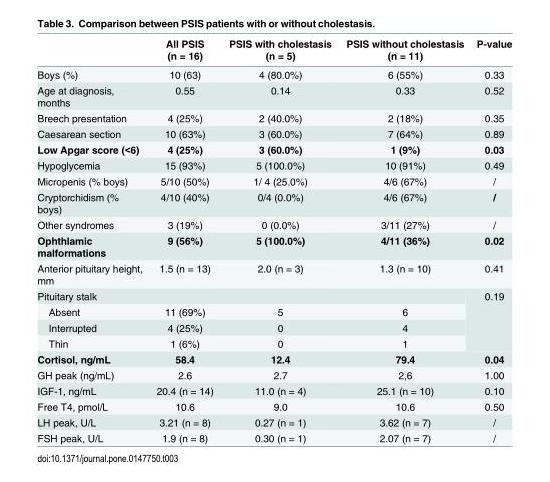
<table><thead><tr><td></td><td>All PSIS (n = 16)</td><td>PSIS with cholestasis (n = 5)</td><td>PSIS without cholestasis (n = 11)</td><td>P-value</td></tr></thead><tbody><tr><td>Boys (%)</td><td>10 (63)</td><td>4 (80.0%)</td><td>6 (55%)</td><td>0.33</td></tr><tr><td>Age at diagnosis, months</td><td>0.55</td><td>0.14</td><td>0.33</td><td>0.52</td></tr><tr><td>Breech presentation</td><td>4 (25%)</td><td>2 (40.0%)</td><td>2 (18%)</td><td>0.35</td></tr><tr><td>Caesarean section</td><td>10 (63%)</td><td>3 (60.0%)</td><td>7 (64%)</td><td>0.89</td></tr><tr><td>Low Apgar score (&lt;6)</td><td>4 (25%)</td><td>3 (60.0%)</td><td>1 (9%)</td><td>0.03</td></tr><tr><td>Hypoglycemia</td><td>15 (93%)</td><td>5 (100.0%)</td><td>10 (91%)</td><td>0.49</td></tr><tr><td>Micropenis (% boys)</td><td>5/10 (50%)</td><td>1/ 4 (25.0%)</td><td>4/6 (67%)</td><td>/</td></tr><tr><td>Cryptorchidism (% boys)</td><td>4/10 (40%)</td><td>0/4 (0.0%)</td><td>4/6 (67%)</td><td>/</td></tr><tr><td>Other syndromes</td><td>3 (19%)</td><td>0 (0.0%)</td><td>3/11 (27%)</td><td>/</td></tr><tr><td>Ophthlamic malformations</td><td>9 (56%)</td><td>5 (100.0%)</td><td>4/11 (36%)</td><td>0.02</td></tr><tr><td>Anterior pituitary height, mm</td><td>1.5 (n = 13)</td><td>2.0 (n = 3)</td><td>1.3 (n = 10)</td><td>0.41</td></tr><tr><td colspan="4">Pituitary stalk</td><td rowspan="4">0.19</td></tr><tr><td>Absent</td><td>11 (69%)</td><td>5</td><td>6</td></tr><tr><td>Interrupted</td><td>4 (25%)</td><td>0</td><td>4</td></tr><tr><td>Thin</td><td>1 (6%)</td><td>0</td><td>1</td></tr><tr><td>Cortisol, ng/mL</td><td>58.4</td><td>12.4</td><td>79.4</td><td>0.04</td></tr><tr><td>GH peak (ng/mL)</td><td>2.6</td><td>2.7</td><td>2,6</td><td>1.00</td></tr><tr><td>IGF-1, ng/mL</td><td>20.4 (n = 14)</td><td>11.0 (n = 4)</td><td>25.1 (n = 10)</td><td>0.10</td></tr><tr><td>Free T4, pmol/L</td><td>10.6</td><td>9.0</td><td>10.6</td><td>0.50</td></tr><tr><td>LH peak, U/L</td><td>3.21 (n = 8)</td><td>0.27 (n = 1)</td><td>3.62 (n = 7)</td><td>/</td></tr><tr><td>FSH peak, U/L</td><td>1.9 (n = 8)</td><td>0.30 (n = 1)</td><td>2.07 (n = 7)</td><td>/</td></tr></tbody></table>